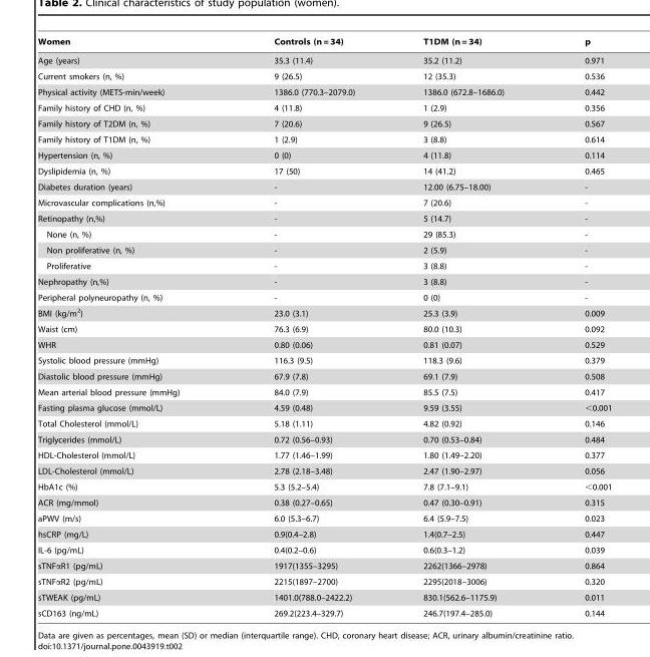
<table><thead><tr><td>Women</td><td>Controls (n = 34)</td><td>T1DM (n = 34)</td><td>p</td></tr></thead><tbody><tr><td>Age (years)</td><td>35.3 (11.4)</td><td>35.2 (11.2)</td><td>0.971</td></tr><tr><td>Current smokers (n, %)</td><td>9 (26.5)</td><td>12 (35.3)</td><td>0.536</td></tr><tr><td>Physical activity (METS-min/week)</td><td>1386.0 (770.3–2079.0)</td><td>1386.0 (672.8–1686.0)</td><td>0.442</td></tr><tr><td>Family history of CHD (n, %)</td><td>4 (11.8)</td><td>1 (2.9)</td><td>0.356</td></tr><tr><td>Family history of T2DM (n, %)</td><td>7 (20.6)</td><td>9 (26.5)</td><td>0.567</td></tr><tr><td>Family history of T1DM (n, %)</td><td>1 (2.9)</td><td>3 (8.8)</td><td>0.614</td></tr><tr><td>Hypertension (n, %)</td><td>0 (0)</td><td>4 (11.8)</td><td>0.114</td></tr><tr><td>Dyslipidemia (n, %)</td><td>17 (50)</td><td>14 (41.2)</td><td>0.465</td></tr><tr><td>Diabetes duration (years)</td><td>-</td><td>12.00 (6.75–18.00)</td><td>-</td></tr><tr><td>Microvascular complications (n,%)</td><td>-</td><td>7 (20.6)</td><td>-</td></tr><tr><td>Retinopathy (n,%)</td><td>-</td><td>5 (14.7)</td><td>-</td></tr><tr><td>None (n, %)</td><td>-</td><td>29 (85.3)</td><td>-</td></tr><tr><td>Non proliferative (n, %)</td><td>-</td><td>2 (5.9)</td><td>-</td></tr><tr><td>Proliferative</td><td>-</td><td>3 (8.8)</td><td>-</td></tr><tr><td>Nephropathy (n,%)</td><td>-</td><td>3 (8.8)</td><td>-</td></tr><tr><td>Peripheral polyneuropathy (n, %)</td><td>-</td><td>0 (0)</td><td>-</td></tr><tr><td>BMI (kg/m<sup>2</sup>)</td><td>23.0 (3.1)</td><td>25.3 (3.9)</td><td>0.009</td></tr><tr><td>Waist (cm)</td><td>76.3 (6.9)</td><td>80.0 (10.3)</td><td>0.092</td></tr><tr><td>WHR</td><td>0.80 (0.06)</td><td>0.81 (0.07)</td><td>0.529</td></tr><tr><td>Systolic blood pressure (mmHg)</td><td>116.3 (9.5)</td><td>118.3 (9.6)</td><td>0.379</td></tr><tr><td>Diastolic blood pressure (mmHg)</td><td>67.9 (7.8)</td><td>69.1 (7.9)</td><td>0.508</td></tr><tr><td>Mean arterial blood pressure (mmHg)</td><td>84.0 (7.9)</td><td>85.5 (7.5)</td><td>0.417</td></tr><tr><td>Fasting plasma glucose (mmol/L)</td><td>4.59 (0.48)</td><td>9.59 (3.55)</td><td>&lt;0.001</td></tr><tr><td>Total Cholesterol (mmol/L)</td><td>5.18 (1.11)</td><td>4.82 (0.92)</td><td>0.146</td></tr><tr><td>Triglycerides (mmol/L)</td><td>0.72 (0.56–0.93)</td><td>0.70 (0.53–0.84)</td><td>0.484</td></tr><tr><td>HDL-Cholesterol (mmol/L)</td><td>1.77 (1.46–1.99)</td><td>1.80 (1.49–2.20)</td><td>0.377</td></tr><tr><td>LDL-Cholesterol (mmol/L)</td><td>2.78 (2.18–3.48)</td><td>2.47 (1.90–2.97)</td><td>0.056</td></tr><tr><td>HbA1c (%)</td><td>5.3 (5.2–5.4)</td><td>7.8 (7.1–9.1)</td><td>&lt;0.001</td></tr><tr><td>ACR (mg/mmol)</td><td>0.38 (0.27–0.65)</td><td>0.47 (0.30–0.91)</td><td>0.315</td></tr><tr><td>aPWV (m/s)</td><td>6.0 (5.3–6.7)</td><td>6.4 (5.9–7.5)</td><td>0.023</td></tr><tr><td>hsCRP (mg/L)</td><td>0.9(0.4–2.8)</td><td>1.4(0.7–2.5)</td><td>0.447</td></tr><tr><td>IL-6 (pg/mL)</td><td>0.4(0.2–0.6)</td><td>0.6(0.3–1.2)</td><td>0.039</td></tr><tr><td>sTNFαR1 (pg/mL)</td><td>1917(1355–3295)</td><td>2262(1366–2978)</td><td>0.864</td></tr><tr><td>sTNFαR2 (pg/mL)</td><td>2215(1897–2700)</td><td>2295(2018–3006)</td><td>0.320</td></tr><tr><td>sTWEAK (pg/mL)</td><td>1401.0(788.0–2422.2)</td><td>830.1(562.6–1175.9)</td><td>0.011</td></tr><tr><td>sCD163 (ng/mL)</td><td>269.2(223.4–329.7)</td><td>246.7(197.4–285.0)</td><td>0.144</td></tr></tbody></table>